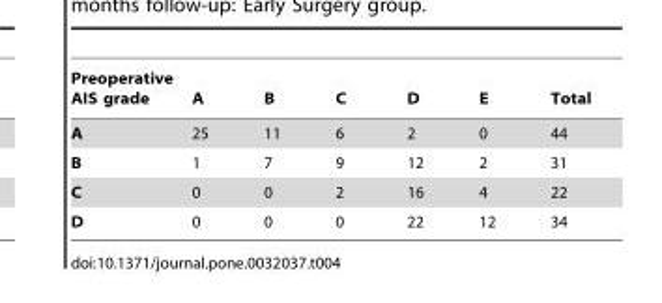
<table><thead><tr><td>Preoperative AIS grade</td><td>A</td><td>B</td><td>C</td><td>D</td><td>E</td><td>Total</td></tr></thead><tbody><tr><td>A</td><td>25</td><td>11</td><td>6</td><td>2</td><td>0</td><td>44</td></tr><tr><td>B</td><td>1</td><td>7</td><td>9</td><td>12</td><td>2</td><td>31</td></tr><tr><td>C</td><td>0</td><td>0</td><td>2</td><td>16</td><td>4</td><td>22</td></tr><tr><td>D</td><td>0</td><td>0</td><td>0</td><td>22</td><td>12</td><td>34</td></tr></tbody></table>